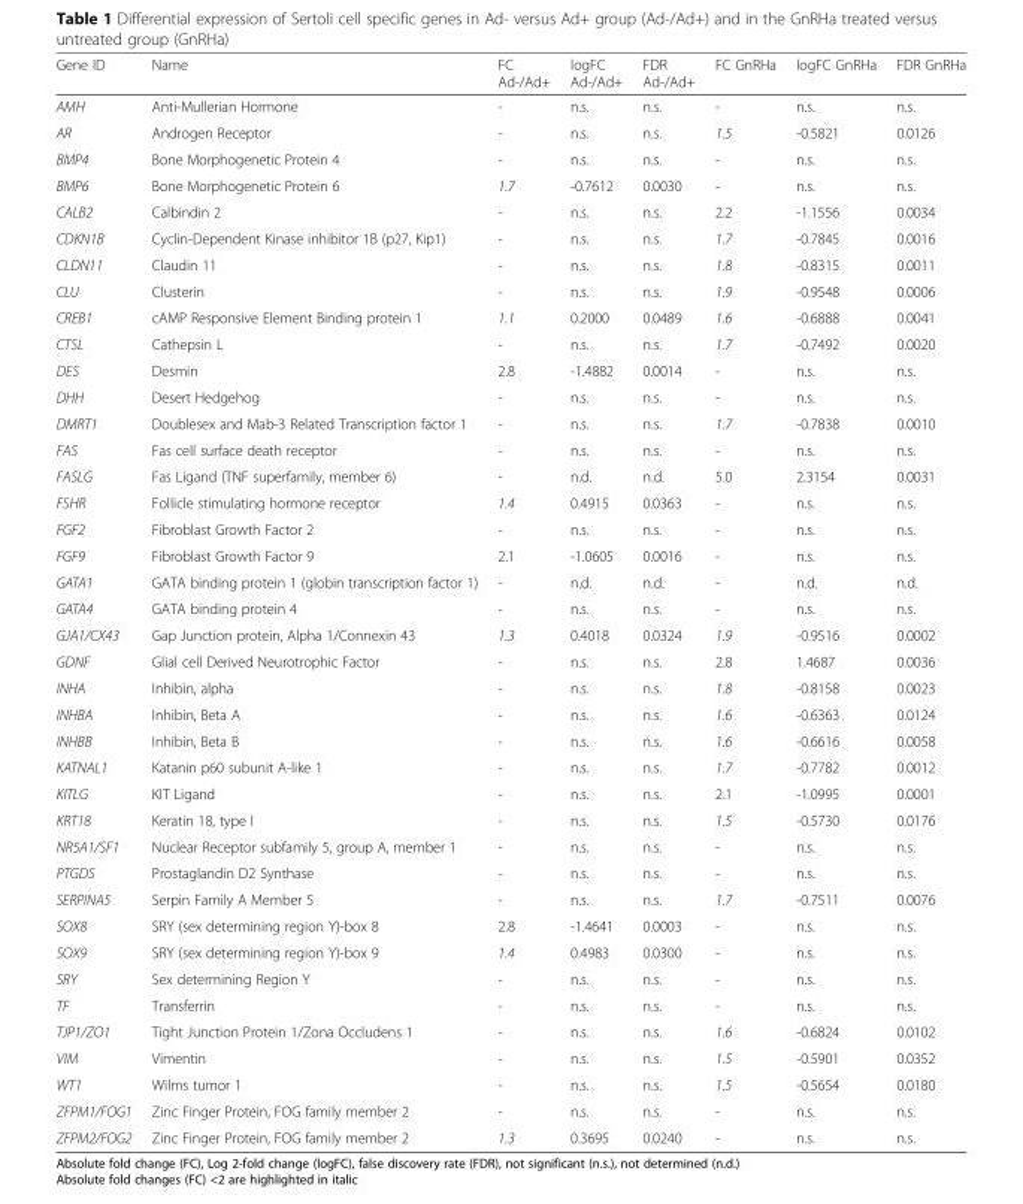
<table><thead><tr><td>Gene ID</td><td>Name</td><td>FC Ad-/Ad+</td><td>logFC Ad-/Ad+</td><td>FDR Ad-/Ad+</td><td>FC GnRHa</td><td>logFC GnRHa</td><td>FDR GnRHa</td></tr></thead><tbody><tr><td>AMH</td><td>Anti-Mullerian Hormone</td><td>-</td><td>n.s.</td><td>n.s.</td><td>-</td><td>n.s.</td><td>n.s.</td></tr><tr><td>AR</td><td>Androgen Receptor</td><td>-</td><td>n.s.</td><td>n.s.</td><td>1.5</td><td>-0.5821</td><td>0.0126</td></tr><tr><td>BMP4</td><td>Bone Morphogenetic Protein 4</td><td>-</td><td>n.s.</td><td>n.s.</td><td>-</td><td>n.s.</td><td>n.s.</td></tr><tr><td>BMP6</td><td>Bone Morphogenetic Protein 6</td><td>1.7</td><td>-0.7612</td><td>0.0030</td><td>-</td><td>n.s.</td><td>n.s.</td></tr><tr><td>CALB2</td><td>Calbindin 2</td><td>-</td><td>n.s.</td><td>n.s.</td><td>2.2</td><td>-1.1556</td><td>0.0034</td></tr><tr><td>CDKN1B</td><td>Cyclin-Dependent Kinase inhibitor 1B (p27, Kip1)</td><td>-</td><td>n.s.</td><td>n.s.</td><td>1.7</td><td>-0.7845</td><td>0.0016</td></tr><tr><td>CLDN11</td><td>Claudin 11</td><td>-</td><td>n.s.</td><td>n.s.</td><td>1.8</td><td>-0.8315</td><td>0.0011</td></tr><tr><td>CLU</td><td>Clusterin</td><td>-</td><td>n.s.</td><td>n.s.</td><td>1.9</td><td>-0.9548</td><td>0.0006</td></tr><tr><td>CREB1</td><td>cAMP Responsive Element Binding protein 1</td><td>1.1</td><td>0.2000</td><td>0.0489</td><td>1.6</td><td>-0.6888</td><td>0.0041</td></tr><tr><td>CTSL</td><td>Cathepsin L</td><td>-</td><td>n.s.</td><td>n.s.</td><td>1.7</td><td>-0.7492</td><td>0.0020</td></tr><tr><td>DES</td><td>Desmin</td><td>2.8</td><td>-1.4882</td><td>0.0014</td><td>-</td><td>n.s.</td><td>n.s.</td></tr><tr><td>DHH</td><td>Desert Hedgehog</td><td>-</td><td>n.s.</td><td>n.s.</td><td>-</td><td>n.s.</td><td>n.s.</td></tr><tr><td>DMRT1</td><td>Doublesex and Mab-3 Related Transcription factor 1</td><td>-</td><td>n.s.</td><td>n.s.</td><td>1.7</td><td>-0.7838</td><td>0.0010</td></tr><tr><td>FAS</td><td>Fas cell surface death receptor</td><td>-</td><td>n.s.</td><td>n.s.</td><td>-</td><td>n.s.</td><td>n.s.</td></tr><tr><td>FASLG</td><td>Fas Ligand (TNF superfamily, member 6)</td><td>-</td><td>n.d.</td><td>n.d.</td><td>5.0</td><td>2.3154</td><td>0.0031</td></tr><tr><td>FSHR</td><td>Follicle stimulating hormone receptor</td><td>1.4</td><td>0.4915</td><td>0.0363</td><td>-</td><td>n.s.</td><td>n.s.</td></tr><tr><td>FGF2</td><td>Fibroblast Growth Factor 2</td><td>-</td><td>n.s.</td><td>n.s.</td><td>-</td><td>n.s.</td><td>n.s.</td></tr><tr><td>FGF9</td><td>Fibroblast Growth Factor 9</td><td>2.1</td><td>-1.0605</td><td>0.0016</td><td>-</td><td>n.s.</td><td>n.s.</td></tr><tr><td>GATA1</td><td>GATA binding protein 1 (globin transcription factor 1)</td><td>-</td><td>n.d.</td><td>n.d.</td><td>-</td><td>n.d.</td><td>n.d.</td></tr><tr><td>GATA4</td><td>GATA binding protein 4</td><td>-</td><td>n.s.</td><td>n.s.</td><td>-</td><td>n.s.</td><td>n.s.</td></tr><tr><td>GJA1/CX43</td><td>Gap Junction protein, Alpha 1/Connexin 43</td><td>1.3</td><td>0.4018</td><td>0.0324</td><td>1.9</td><td>-0.9516</td><td>0.0002</td></tr><tr><td>GDNF</td><td>Glial cell Derived Neurotrophic Factor</td><td>-</td><td>n.s.</td><td>n.s.</td><td>2.8</td><td>1.4687</td><td>0.0036</td></tr><tr><td>INHA</td><td>Inhibin, alpha</td><td>-</td><td>n.s.</td><td>n.s.</td><td>1.8</td><td>-0.8158</td><td>0.0023</td></tr><tr><td>INHBA</td><td>Inhibin, Beta A</td><td>-</td><td>n.s.</td><td>n.s.</td><td>1.6</td><td>-0.6363</td><td>0.0124</td></tr><tr><td>INHBB</td><td>Inhibin, Beta B</td><td>-</td><td>n.s.</td><td>n.s.</td><td>1.6</td><td>-0.6616</td><td>0.0058</td></tr><tr><td>KATNAL1</td><td>Katanin p60 subunit A-like 1</td><td>-</td><td>n.s.</td><td>n.s.</td><td>1.7</td><td>-0.7782</td><td>0.0012</td></tr><tr><td>KITLG</td><td>KIT Ligand</td><td>-</td><td>n.s.</td><td>n.s.</td><td>2.1</td><td>-1.0995</td><td>0.0001</td></tr><tr><td>KRT18</td><td>Keratin 18, type I</td><td>-</td><td>n.s.</td><td>n.s.</td><td>1.5</td><td>-0.5730</td><td>0.0176</td></tr><tr><td>NR5A1/SF1</td><td>Nuclear Receptor subfamily 5, group A, member 1</td><td>-</td><td>n.s.</td><td>n.s.</td><td>-</td><td>n.s.</td><td>n.s.</td></tr><tr><td>PTGDS</td><td>Prostaglandin D2 Synthase</td><td>-</td><td>n.s.</td><td>n.s.</td><td>-</td><td>n.s.</td><td>n.s.</td></tr><tr><td>SERPINA5</td><td>Serpin Family A Member 5</td><td>-</td><td>n.s.</td><td>n.s.</td><td>1.7</td><td>-0.7511</td><td>0.0076</td></tr><tr><td>SOX8</td><td>SRY (sex determining region Y)-box 8</td><td>2.8</td><td>-1.4641</td><td>0.0003</td><td>-</td><td>n.s.</td><td>n.s.</td></tr><tr><td>SOX9</td><td>SRY (sex determining region Y)-box 9</td><td>1.4</td><td>0.4983</td><td>0.0300</td><td>-</td><td>n.s.</td><td>n.s.</td></tr><tr><td>SRY</td><td>Sex determining Region Y</td><td>-</td><td>n.s.</td><td>n.s.</td><td>-</td><td>n.s.</td><td>n.s.</td></tr><tr><td>TF</td><td>Transferrin</td><td>-</td><td>n.s.</td><td>n.s.</td><td>-</td><td>n.s.</td><td>n.s.</td></tr><tr><td>TJP1/ZO1</td><td>Tight Junction Protein 1/Zona Occludens 1</td><td>-</td><td>n.s.</td><td>n.s.</td><td>1.6</td><td>-0.6824</td><td>0.0102</td></tr><tr><td>VIM</td><td>Vimentin</td><td>-</td><td>n.s.</td><td>n.s.</td><td>1.5</td><td>-0.5901</td><td>0.0352</td></tr><tr><td>WT1</td><td>Wilms tumor 1</td><td>-</td><td>n.s.</td><td>n.s.</td><td>1.5</td><td>-0.5654</td><td>0.0180</td></tr><tr><td>ZFPM1/FOG1</td><td>Zinc Finger Protein, FOG family member 2</td><td>-</td><td>n.s.</td><td>n.s.</td><td>-</td><td>n.s.</td><td>n.s.</td></tr><tr><td>ZFPM2/FOG2</td><td>Zinc Finger Protein, FOG family member 2</td><td>1.3</td><td>0.3695</td><td>0.0240</td><td>-</td><td>n.s.</td><td>n.s.</td></tr></tbody></table>